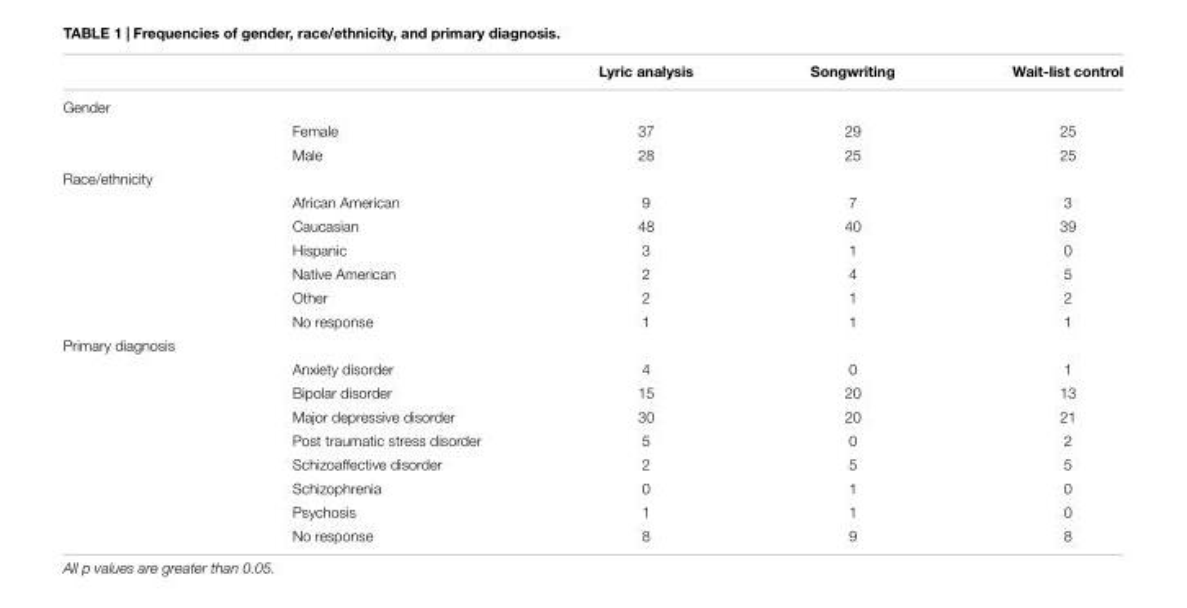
<table><thead><tr><td></td><td></td><td>Lyric analysis</td><td>Songwriting</td><td>Wait-list control</td></tr></thead><tbody><tr><td colspan="5">Gender</td></tr><tr><td></td><td>Female</td><td>37</td><td>29</td><td>25</td></tr><tr><td></td><td>Male</td><td>28</td><td>25</td><td>25</td></tr><tr><td colspan="5">Race/ethnicity</td></tr><tr><td></td><td>African American</td><td>9</td><td>7</td><td>3</td></tr><tr><td></td><td>Caucasian</td><td>48</td><td>40</td><td>39</td></tr><tr><td></td><td>Hispanic</td><td>3</td><td>1</td><td>0</td></tr><tr><td></td><td>Native American</td><td>2</td><td>4</td><td>5</td></tr><tr><td></td><td>Other</td><td>2</td><td>1</td><td>2</td></tr><tr><td></td><td>No response</td><td>1</td><td>1</td><td>1</td></tr><tr><td colspan="5">Primary diagnosis</td></tr><tr><td></td><td>Anxiety disorder</td><td>4</td><td>0</td><td>1</td></tr><tr><td></td><td>Bipolar disorder</td><td>15</td><td>20</td><td>13</td></tr><tr><td></td><td>Major depressive disorder</td><td>30</td><td>20</td><td>21</td></tr><tr><td></td><td>Post traumatic stress disorder</td><td>5</td><td>0</td><td>2</td></tr><tr><td></td><td>Schizoaffective disorder</td><td>2</td><td>5</td><td>5</td></tr><tr><td></td><td>Schizophrenia</td><td>0</td><td>1</td><td>0</td></tr><tr><td></td><td>Psychosis</td><td>1</td><td>1</td><td>0</td></tr><tr><td></td><td>No response</td><td>8</td><td>9</td><td>8</td></tr></tbody></table>